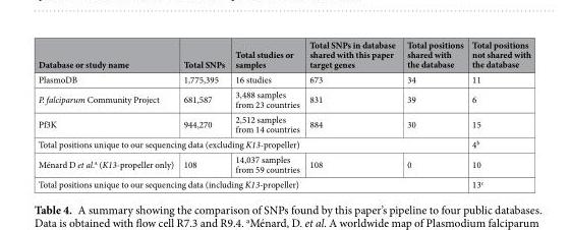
<table><thead><tr><td>Database or study name</td><td>Total SNPs</td><td>Total studies or samples</td><td>Total SNPs in database shared with this paper target genes</td><td>Total positions shared with the database</td><td>Total positions not shared with the database</td></tr></thead><tbody><tr><td>PlasmoDB</td><td>1,775,395</td><td>16 studies</td><td>673</td><td>34</td><td>11</td></tr><tr><td>P. falciparum Community Project</td><td>681,587</td><td>3,488 samples from 23 countries</td><td>831</td><td>39</td><td>6</td></tr><tr><td>Pf3K</td><td>944,270</td><td>2,512 samples from 14 countries</td><td>884</td><td>30</td><td>15</td></tr><tr><td colspan="5">Total positions unique to our sequencing data (excluding K13-propeller)</td><td>4<sup>b</sup></td></tr><tr><td>Ménard D et al.<sup>a</sup> (K13-propeller only)</td><td>108</td><td>14,037 samples from 59 countries</td><td>108</td><td>0</td><td>10</td></tr><tr><td colspan="5">Total positions unique to our sequencing data (including K13-propeller)</td><td>13<sup>c</sup></td></tr></tbody></table>